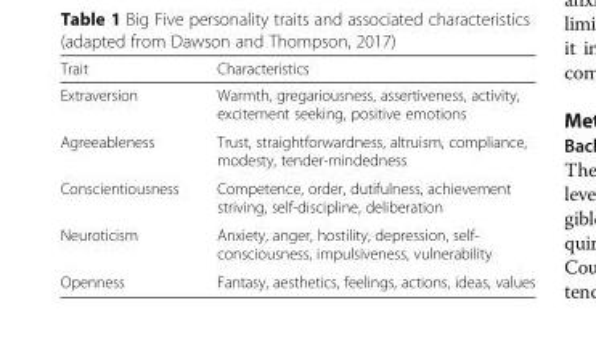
<table><thead><tr><td>Trait</td><td>Characteristics</td></tr></thead><tbody><tr><td>Extraversion</td><td>Warmth, gregariousness, assertiveness, activity, excitement seeking, positive emotions</td></tr><tr><td>Agreeableness</td><td>Trust, straightforwardness, altruism, compliance, modesty, tender-mindedness</td></tr><tr><td>Conscientiousness</td><td>Competence, order, dutifulness, achievement striving, self-discipline, deliberation</td></tr><tr><td>Neuroticism</td><td>Anxiety, anger, hostility, depression, self- consciousness, impulsiveness, vulnerability</td></tr><tr><td>Openness</td><td>Fantasy, aesthetics, feelings, actions, ideas, values</td></tr></tbody></table>